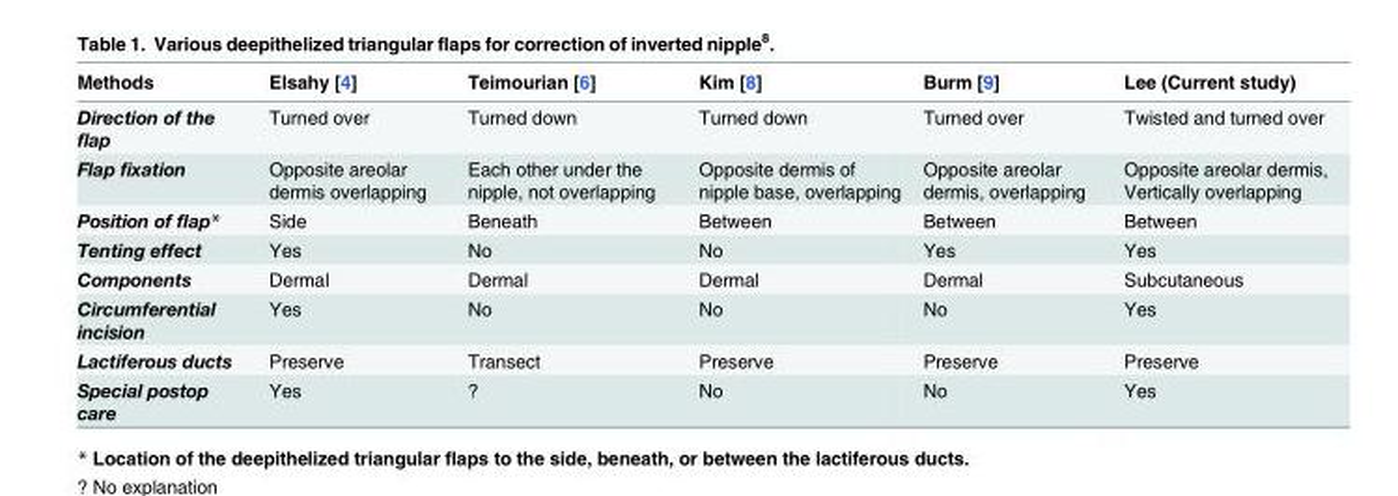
<table><thead><tr><td>Methods</td><td>Elsahy [4]</td><td>Teimourian [6]</td><td>Kim [8]</td><td>Burm [9]</td><td>Lee (Current study)</td></tr></thead><tbody><tr><td>Direction of the flap</td><td>Turned over</td><td>Turned down</td><td>Turned down</td><td>Turned over</td><td>Twisted and turned over</td></tr><tr><td>Flap fixation</td><td>Opposite areolar dermis overlapping</td><td>Each other under the nipple, not overlapping</td><td>Opposite dermis of nipple base, overlapping</td><td>Opposite areolar dermis, overlapping</td><td>Opposite areolar dermis, Vertically overlapping</td></tr><tr><td>Position of flap*</td><td>Side</td><td>Beneath</td><td>Between</td><td>Between</td><td>Between</td></tr><tr><td>Tenting effect</td><td>Yes</td><td>No</td><td>No</td><td>Yes</td><td>Yes</td></tr><tr><td>Components</td><td>Dermal</td><td>Dermal</td><td>Dermal</td><td>Dermal</td><td>Subcutaneous</td></tr><tr><td>Circumferential incision</td><td>Yes</td><td>No</td><td>No</td><td>No</td><td>Yes</td></tr><tr><td>Lactiferous ducts</td><td>Preserve</td><td>Transect</td><td>Preserve</td><td>Preserve</td><td>Preserve</td></tr><tr><td>Special postop care</td><td>Yes</td><td>?</td><td>No</td><td>No</td><td>Yes</td></tr></tbody></table>